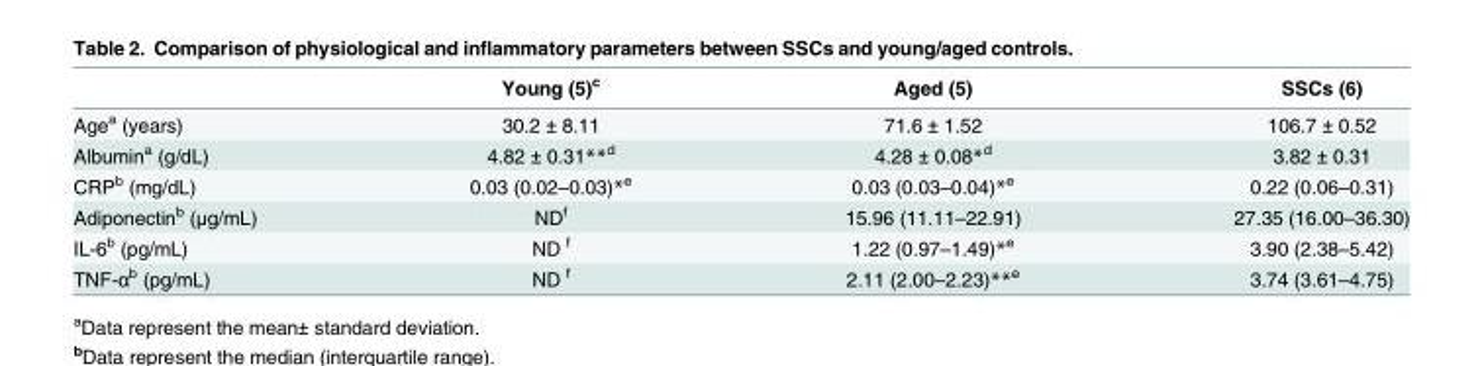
<table><thead><tr><td></td><td>Young (5)<sup>c</sup></td><td>Aged (5)</td><td>SSCs (6)</td></tr></thead><tbody><tr><td>Age<sup>a</sup> (years)</td><td>30.2 ± 8.11</td><td>71.6 ± 1.52</td><td>106.7 ± 0.52</td></tr><tr><td>Albumin<sup>a</sup> (g/dL)</td><td>4.82 ± 0.31**<sup>d</sup></td><td>4.28 ± 0.08*<sup>d</sup></td><td>3.82 ± 0.31</td></tr><tr><td>CRP<sup>b</sup> (mg/dL)</td><td>0.03 (0.02–0.03)*<sup>e</sup></td><td>0.03 (0.03–0.04)*<sup>e</sup></td><td>0.22 (0.06–0.31)</td></tr><tr><td>Adiponectin<sup>b</sup> (μg/mL)</td><td>ND<sup>f</sup></td><td>15.96 (11.11–22.91)</td><td>27.35 (16.00–36.30)</td></tr><tr><td>IL-6<sup>b</sup> (pg/mL)</td><td>ND <sup>f</sup></td><td>1.22 (0.97–1.49)*<sup>e</sup></td><td>3.90 (2.38–5.42)</td></tr><tr><td>TNF-α<sup>b</sup> (pg/mL)</td><td>ND <sup>f</sup></td><td>2.11 (2.00–2.23)**<sup>e</sup></td><td>3.74 (3.61–4.75)</td></tr></tbody></table>